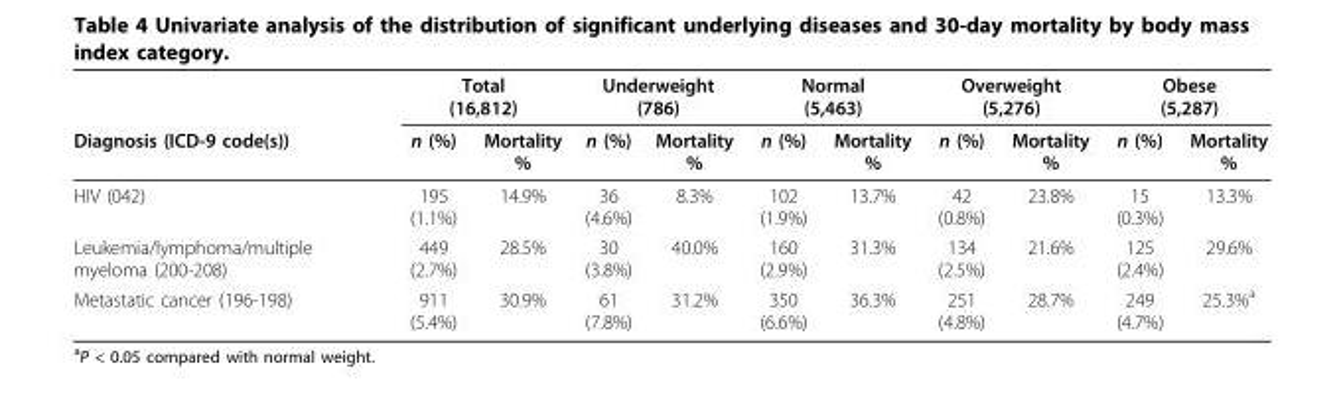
<table><thead><tr><td rowspan="2">Diagnosis (ICD-9 code(s))</td><td colspan="2">Total (16,812)</td><td colspan="2">Underweight (786)</td><td colspan="2">Normal (5,463)</td><td colspan="2">Overweight (5,276)</td><td colspan="2">Obese (5,287)</td></tr><tr><td>n (%)</td><td>Mortality %</td><td>n (%)</td><td>Mortality %</td><td>n (%)</td><td>Mortality %</td><td>n (%)</td><td>Mortality %</td><td>n (%)</td><td>Mortality %</td></tr></thead><tbody><tr><td>HIV (042)</td><td>195 (1.1%)</td><td>14.9%</td><td>36 (4.6%)</td><td>8.3%</td><td>102 (1.9%)</td><td>13.7%</td><td>42 (0.8%)</td><td>23.8%</td><td>15 (0.3%)</td><td>13.3%</td></tr><tr><td>Leukemia/lymphoma/multiple myeloma (200-208)</td><td>449 (2.7%)</td><td>28.5%</td><td>30 (3.8%)</td><td>40.0%</td><td>160 (2.9%)</td><td>31.3%</td><td>134 (2.5%)</td><td>21.6%</td><td>125 (2.4%)</td><td>29.6%</td></tr><tr><td>Metastatic cancer (196-198)</td><td>911 (5.4%)</td><td>30.9%</td><td>61 (7.8%)</td><td>31.2%</td><td>350 (6.6%)</td><td>36.3%</td><td>251 (4.8%)</td><td>28.7%</td><td>249 (4.7%)</td><td>25.3%<sup>a</sup></td></tr></tbody></table>